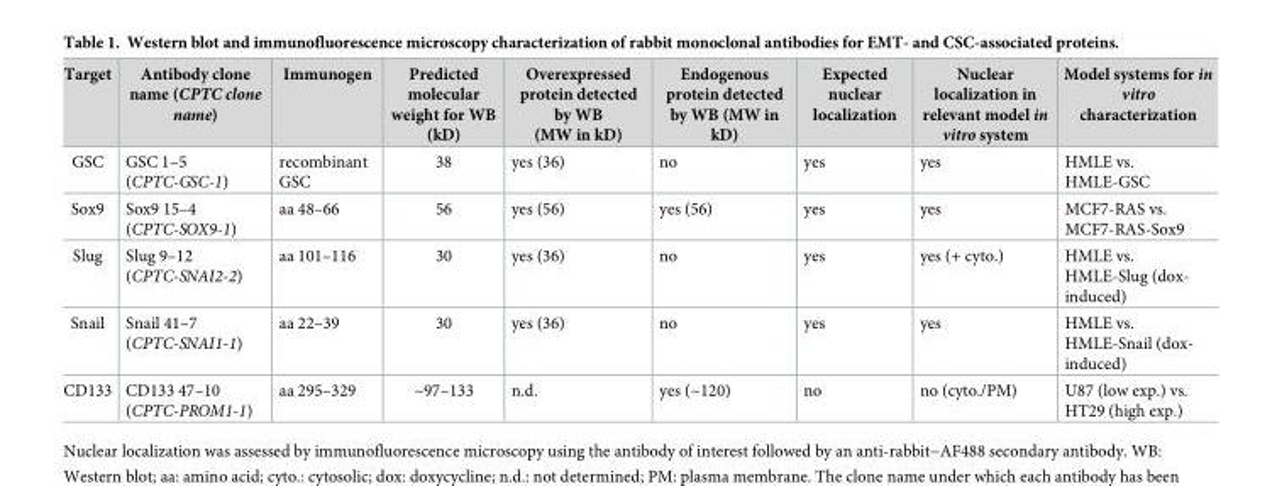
<table><thead><tr><td>Target</td><td>Antibody clone name (CPTC clone name)</td><td>Immunogen</td><td>Predicted molecular weight for WB (kD)</td><td>Overexpressed protein detected by WB (MW in kD)</td><td>Endogenous protein detected by WB (MW in kD)</td><td>Expected nuclear localization</td><td>Nuclear localization in relevant model in vitro system</td><td>Model systems for in vitro characterization</td></tr></thead><tbody><tr><td>GSC</td><td>GSC 1–5 (CPTC-GSC-1)</td><td>recombinant GSC</td><td>38</td><td>yes (36)</td><td>no</td><td>yes</td><td>yes</td><td>HMLE vs. HMLE-GSC</td></tr><tr><td>Sox9</td><td>Sox9 15–4 (CPTC-SOX9-1)</td><td>aa 48–66</td><td>56</td><td>yes (56)</td><td>yes (56)</td><td>yes</td><td>yes</td><td>MCF7-RAS vs. MCF7-RAS-Sox9</td></tr><tr><td>Slug</td><td>Slug 9–12 (CPTC-SNAI2-2)</td><td>aa 101–116</td><td>30</td><td>yes (36)</td><td>no</td><td>yes</td><td>yes (+ cyto.)</td><td>HMLE vs. HMLE-Slug (dox- induced)</td></tr><tr><td>Snail</td><td>Snail 41–7 (CPTC-SNAI1-1)</td><td>aa 22–39</td><td>30</td><td>yes (36)</td><td>no</td><td>yes</td><td>yes</td><td>HMLE vs. HMLE-Snail (dox- induced)</td></tr><tr><td>CD133</td><td>CD133 47–10 (CPTC-PROM1-1)</td><td>aa 295–329</td><td>~97–133</td><td>n.d.</td><td>yes (~120)</td><td>no</td><td>no (cyto./PM)</td><td>U87 (low exp.) vs. HT29 (high exp.)</td></tr></tbody></table>